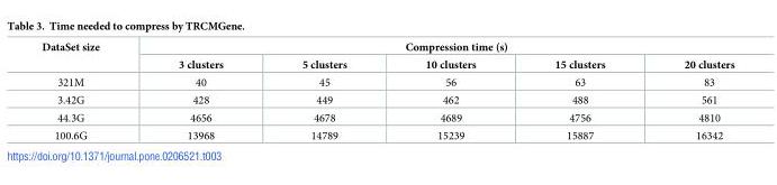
<table><thead><tr><td rowspan="2">DataSet size</td><td colspan="5">Compression time (s)</td></tr><tr><td>3 clusters</td><td>5 clusters</td><td>10 clusters</td><td>15 clusters</td><td>20 clusters</td></tr></thead><tbody><tr><td>321M</td><td>40</td><td>45</td><td>56</td><td>63</td><td>83</td></tr><tr><td>3.42G</td><td>428</td><td>449</td><td>462</td><td>488</td><td>561</td></tr><tr><td>44.3G</td><td>4656</td><td>4678</td><td>4689</td><td>4756</td><td>4810</td></tr><tr><td>100.6G</td><td>13968</td><td>14789</td><td>15239</td><td>15887</td><td>16342</td></tr></tbody></table>